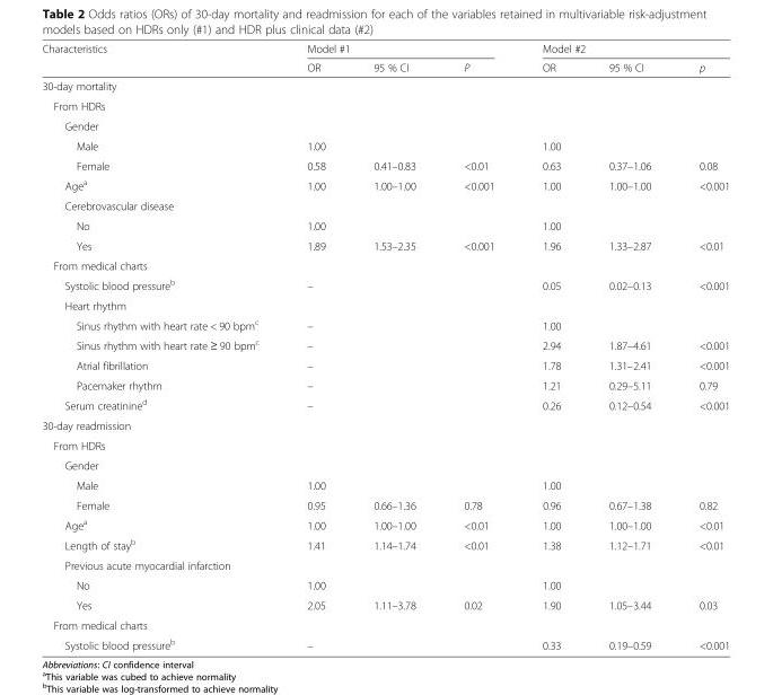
<table><thead><tr><td rowspan="2">Characteristics</td><td colspan="3">Model #1</td><td colspan="3">Model #2</td></tr><tr><td>OR</td><td>95 % CI</td><td>P</td><td>OR</td><td>95 % CI</td><td>p</td></tr></thead><tbody><tr><td colspan="7">30-day mortality</td></tr><tr><td colspan="7">From HDRs</td></tr><tr><td colspan="7">Gender</td></tr><tr><td>Male</td><td>1.00</td><td></td><td></td><td>1.00</td><td></td><td></td></tr><tr><td>Female</td><td>0.58</td><td>0.41–0.83</td><td>&lt;0.01</td><td>0.63</td><td>0.37–1.06</td><td>0.08</td></tr><tr><td>Age<sup>a</sup></td><td>1.00</td><td>1.00–1.00</td><td>&lt;0.001</td><td>1.00</td><td>1.00–1.00</td><td>&lt;0.001</td></tr><tr><td colspan="7">Cerebrovascular disease</td></tr><tr><td>No</td><td>1.00</td><td></td><td></td><td>1.00</td><td></td><td></td></tr><tr><td>Yes</td><td>1.89</td><td>1.53–2.35</td><td>&lt;0.001</td><td>1.96</td><td>1.33–2.87</td><td>&lt;0.01</td></tr><tr><td colspan="7">From medical charts</td></tr><tr><td>Systolic blood pressure<sup>b</sup></td><td>–</td><td></td><td></td><td>0.05</td><td>0.02–0.13</td><td>&lt;0.001</td></tr><tr><td colspan="7">Heart rhythm</td></tr><tr><td>Sinus rhythm with heart rate &lt; 90 bpm<sup>c</sup></td><td>–</td><td></td><td></td><td>1.00</td><td></td><td></td></tr><tr><td>Sinus rhythm with heart rate ≥ 90 bpm<sup>c</sup></td><td>–</td><td></td><td></td><td>2.94</td><td>1.87–4.61</td><td>&lt;0.001</td></tr><tr><td>Atrial fibrillation</td><td>–</td><td></td><td></td><td>1.78</td><td>1.31–2.41</td><td>&lt;0.001</td></tr><tr><td>Pacemaker rhythm</td><td>–</td><td></td><td></td><td>1.21</td><td>0.29–5.11</td><td>0.79</td></tr><tr><td>Serum creatinine<sup>d</sup></td><td>–</td><td></td><td></td><td>0.26</td><td>0.12–0.54</td><td>&lt;0.001</td></tr><tr><td colspan="7">30-day readmission</td></tr><tr><td colspan="7">From HDRs</td></tr><tr><td colspan="7">Gender</td></tr><tr><td>Male</td><td>1.00</td><td></td><td></td><td>1.00</td><td></td><td></td></tr><tr><td>Female</td><td>0.95</td><td>0.66–1.36</td><td>0.78</td><td>0.96</td><td>0.67–1.38</td><td>0.82</td></tr><tr><td>Age<sup>a</sup></td><td>1.00</td><td>1.00–1.00</td><td>&lt;0.01</td><td>1.00</td><td>1.00–1.00</td><td>&lt;0.01</td></tr><tr><td>Length of stay<sup>b</sup></td><td>1.41</td><td>1.14–1.74</td><td>&lt;0.01</td><td>1.38</td><td>1.12–1.71</td><td>&lt;0.01</td></tr><tr><td colspan="7">Previous acute myocardial infarction</td></tr><tr><td>No</td><td>1.00</td><td></td><td></td><td>1.00</td><td></td><td></td></tr><tr><td>Yes</td><td>2.05</td><td>1.11–3.78</td><td>0.02</td><td>1.90</td><td>1.05–3.44</td><td>0.03</td></tr><tr><td colspan="7">From medical charts</td></tr><tr><td>Systolic blood pressure<sup>b</sup></td><td>–</td><td></td><td></td><td>0.33</td><td>0.19–0.59</td><td>&lt;0.001</td></tr></tbody></table>